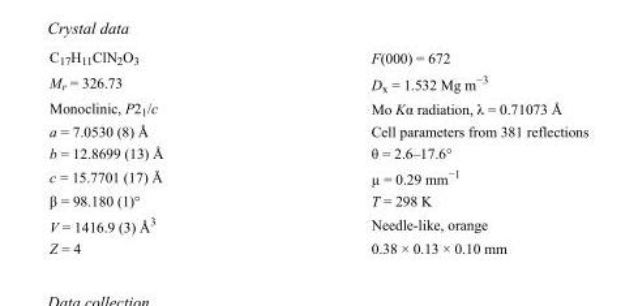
<table><tbody><tr><td>C<sub>17</sub>H<sub>11</sub>ClN<sub>2</sub>O<sub>3</sub></td><td>F(000) = 672</td></tr><tr><td>M<sub>r</sub> = 326.73</td><td>D<sub>x</sub> = 1.532 Mg m<sup>−3</sup></td></tr><tr><td>Monoclinic, P2<sub>1</sub>/c</td><td>Mo Kα radiation, λ = 0.71073 Å</td></tr><tr><td>a = 7.0530 (8) Å</td><td>Cell parameters from 381 reflections</td></tr><tr><td>b = 12.8699 (13) Å</td><td>θ = 2.6–17.6°</td></tr><tr><td>c = 15.7701 (17) Å</td><td>µ = 0.29 mm<sup>−1</sup></td></tr><tr><td>β = 98.180 (1)°</td><td>T = 298 K</td></tr><tr><td>V = 1416.9 (3) Å<sup>3</sup></td><td>Needle-like, orange</td></tr><tr><td>Z = 4</td><td>0.38 × 0.13 × 0.10 mm</td></tr></tbody></table>